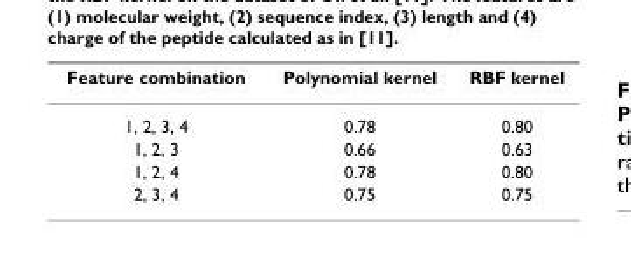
<table><thead><tr><td>Feature combination</td><td>Polynomial kernel</td><td>RBF kernel</td></tr></thead><tbody><tr><td>1, 2, 3, 4</td><td>0.78</td><td>0.80</td></tr><tr><td>1, 2, 3</td><td>0.66</td><td>0.63</td></tr><tr><td>1, 2, 4</td><td>0.78</td><td>0.80</td></tr><tr><td>2, 3, 4</td><td>0.75</td><td>0.75</td></tr></tbody></table>